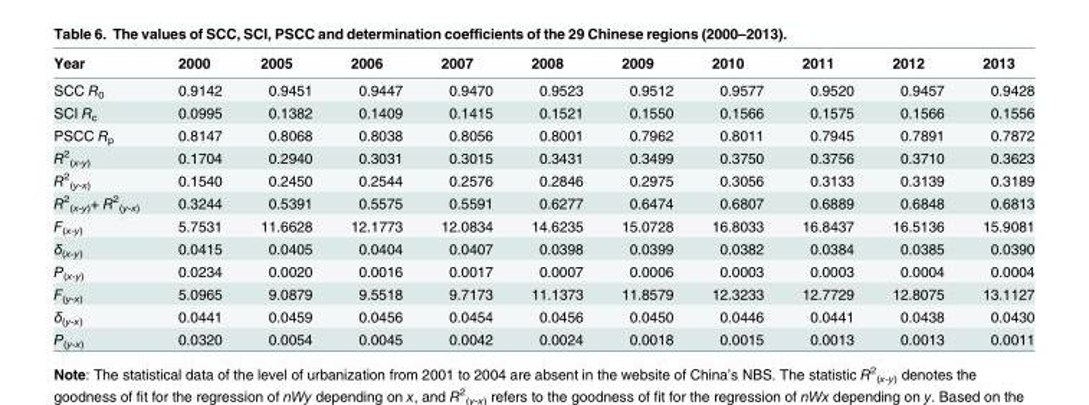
<table><thead><tr><td>Year</td><td>2000</td><td>2005</td><td>2006</td><td>2007</td><td>2008</td><td>2009</td><td>2010</td><td>2011</td><td>2012</td><td>2013</td></tr></thead><tbody><tr><td>SCC R<sub>0</sub></td><td>0.9142</td><td>0.9451</td><td>0.9447</td><td>0.9470</td><td>0.9523</td><td>0.9512</td><td>0.9577</td><td>0.9520</td><td>0.9457</td><td>0.9428</td></tr><tr><td>SCI R<sub>c</sub></td><td>0.0995</td><td>0.1382</td><td>0.1409</td><td>0.1415</td><td>0.1521</td><td>0.1550</td><td>0.1566</td><td>0.1575</td><td>0.1566</td><td>0.1556</td></tr><tr><td>PSCC R<sub>p</sub></td><td>0.8147</td><td>0.8068</td><td>0.8038</td><td>0.8056</td><td>0.8001</td><td>0.7962</td><td>0.8011</td><td>0.7945</td><td>0.7891</td><td>0.7872</td></tr><tr><td>R<sup>2</sup> <sub>(x-y)</sub></td><td>0.1704</td><td>0.2940</td><td>0.3031</td><td>0.3015</td><td>0.3431</td><td>0.3499</td><td>0.3750</td><td>0.3756</td><td>0.3710</td><td>0.3623</td></tr><tr><td>R<sup>2</sup> <sub>(y-x)</sub></td><td>0.1540</td><td>0.2450</td><td>0.2544</td><td>0.2576</td><td>0.2846</td><td>0.2975</td><td>0.3056</td><td>0.3133</td><td>0.3139</td><td>0.3189</td></tr><tr><td>R<sup>2</sup> <sub>(x-y)</sub>+ R<sup>2</sup> <sub>(y-x)</sub></td><td>0.3244</td><td>0.5391</td><td>0.5575</td><td>0.5591</td><td>0.6277</td><td>0.6474</td><td>0.6807</td><td>0.6889</td><td>0.6848</td><td>0.6813</td></tr><tr><td>F<sub>(x-y)</sub></td><td>5.7531</td><td>11.6628</td><td>12.1773</td><td>12.0834</td><td>14.6235</td><td>15.0728</td><td>16.8033</td><td>16.8437</td><td>16.5136</td><td>15.9081</td></tr><tr><td>δ<sub>(x-y)</sub></td><td>0.0415</td><td>0.0405</td><td>0.0404</td><td>0.0407</td><td>0.0398</td><td>0.0399</td><td>0.0382</td><td>0.0384</td><td>0.0385</td><td>0.0390</td></tr><tr><td>P<sub>(x-y)</sub></td><td>0.0234</td><td>0.0020</td><td>0.0016</td><td>0.0017</td><td>0.0007</td><td>0.0006</td><td>0.0003</td><td>0.0003</td><td>0.0004</td><td>0.0004</td></tr><tr><td>F<sub>(y-x)</sub></td><td>5.0965</td><td>9.0879</td><td>9.5518</td><td>9.7173</td><td>11.1373</td><td>11.8579</td><td>12.3233</td><td>12.7729</td><td>12.8075</td><td>13.1127</td></tr><tr><td>δ<sub>(y-x)</sub></td><td>0.0441</td><td>0.0459</td><td>0.0456</td><td>0.0454</td><td>0.0456</td><td>0.0450</td><td>0.0446</td><td>0.0441</td><td>0.0438</td><td>0.0430</td></tr><tr><td>P<sub>(y-x)</sub></td><td>0.0320</td><td>0.0054</td><td>0.0045</td><td>0.0042</td><td>0.0024</td><td>0.0018</td><td>0.0015</td><td>0.0013</td><td>0.0013</td><td>0.0011</td></tr></tbody></table>